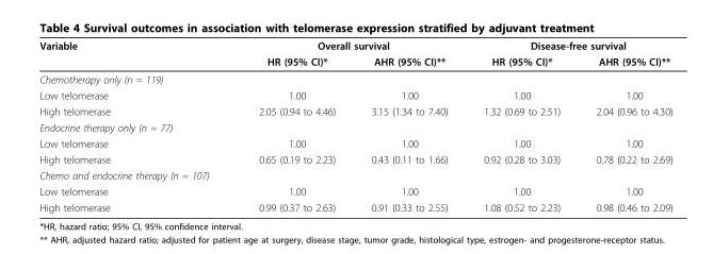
<table><thead><tr><td rowspan="2">Variable</td><td colspan="2">Overall survival</td><td colspan="2">Disease-free survival</td></tr><tr><td>HR (95% CI)*</td><td>AHR (95% CI)**</td><td>HR (95% CI)*</td><td>AHR (95% CI)**</td></tr></thead><tbody><tr><td colspan="5">Chemotherapy only (n = 119)</td></tr><tr><td>Low telomerase</td><td>1.00</td><td>1.00</td><td>1.00</td><td>1.00</td></tr><tr><td>High telomerase</td><td>2.05 (0.94 to 4.46)</td><td>3.15 (1.34 to 7.40)</td><td>1.32 (0.69 to 2.51)</td><td>2.04 (0.96 to 4.30)</td></tr><tr><td colspan="5">Endocrine therapy only (n = 77)</td></tr><tr><td>Low telomerase</td><td>1.00</td><td>1.00</td><td>1.00</td><td>1.00</td></tr><tr><td>High telomerase</td><td>0.65 (0.19 to 2.23)</td><td>0.43 (0.11 to 1.66)</td><td>0.92 (0.28 to 3.03)</td><td>0.78 (0.22 to 2.69)</td></tr><tr><td colspan="5">Chemo and endocrine therapy (n = 107)</td></tr><tr><td>Low telomerase</td><td>1.00</td><td>1.00</td><td>1.00</td><td>1.00</td></tr><tr><td>High telomerase</td><td>0.99 (0.37 to 2.63)</td><td>0.91 (0.33 to 2.55)</td><td>1.08 (0.52 to 2.23)</td><td>0.98 (0.46 to 2.09)</td></tr></tbody></table>